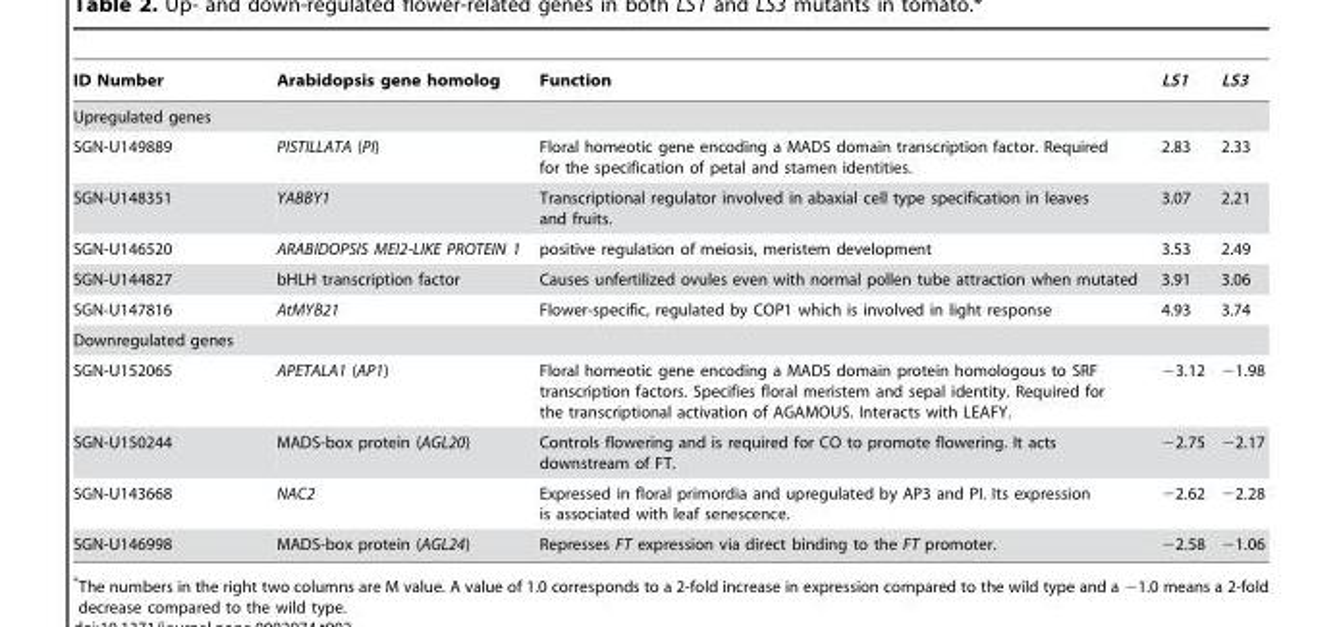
<table><thead><tr><td>ID Number</td><td>Arabidopsis gene homolog</td><td>Function</td><td>LS1</td><td>LS3</td></tr></thead><tbody><tr><td colspan="5">Upregulated genes</td></tr><tr><td>SGN-U149889</td><td>PISTILLATA (PI)</td><td>Floral homeotic gene encoding a MADS domain transcription factor. Required for the specification of petal and stamen identities.</td><td>2.83</td><td>2.33</td></tr><tr><td>SGN-U148351</td><td>YABBY1</td><td>Transcriptional regulator involved in abaxial cell type specification in leaves and fruits.</td><td>3.07</td><td>2.21</td></tr><tr><td>SGN-U146520</td><td>ARABIDOPSIS MEI2-LIKE PROTEIN 1</td><td>positive regulation of meiosis, meristem development</td><td>3.53</td><td>2.49</td></tr><tr><td>SGN-U144827</td><td>bHLH transcription factor</td><td>Causes unfertilized ovules even with normal pollen tube attraction when mutated</td><td>3.91</td><td>3.06</td></tr><tr><td>SGN-U147816</td><td>AtMYB21</td><td>Flower-specific, regulated by COP1 which is involved in light response</td><td>4.93</td><td>3.74</td></tr><tr><td colspan="5">Downregulated genes</td></tr><tr><td>SGN-U152065</td><td>APETALA1 (AP1)</td><td>Floral homeotic gene encoding a MADS domain protein homologous to SRF transcription factors. Specifies floral meristem and sepal identity. Required for the transcriptional activation of AGAMOUS. Interacts with LEAFY.</td><td>−3.12</td><td>−1.98</td></tr><tr><td>SGN-U150244</td><td>MADS-box protein (AGL20)</td><td>Controls flowering and is required for CO to promote flowering. It acts downstream of FT.</td><td>−2.75</td><td>−2.17</td></tr><tr><td>SGN-U143668</td><td>NAC2</td><td>Expressed in floral primordia and upregulated by AP3 and PI. Its expression is associated with leaf senescence.</td><td>−2.62</td><td>−2.28</td></tr><tr><td>SGN-U146998</td><td>MADS-box protein (AGL24)</td><td>Represses FT expression via direct binding to the FT promoter.</td><td>−2.58</td><td>−1.06</td></tr></tbody></table>